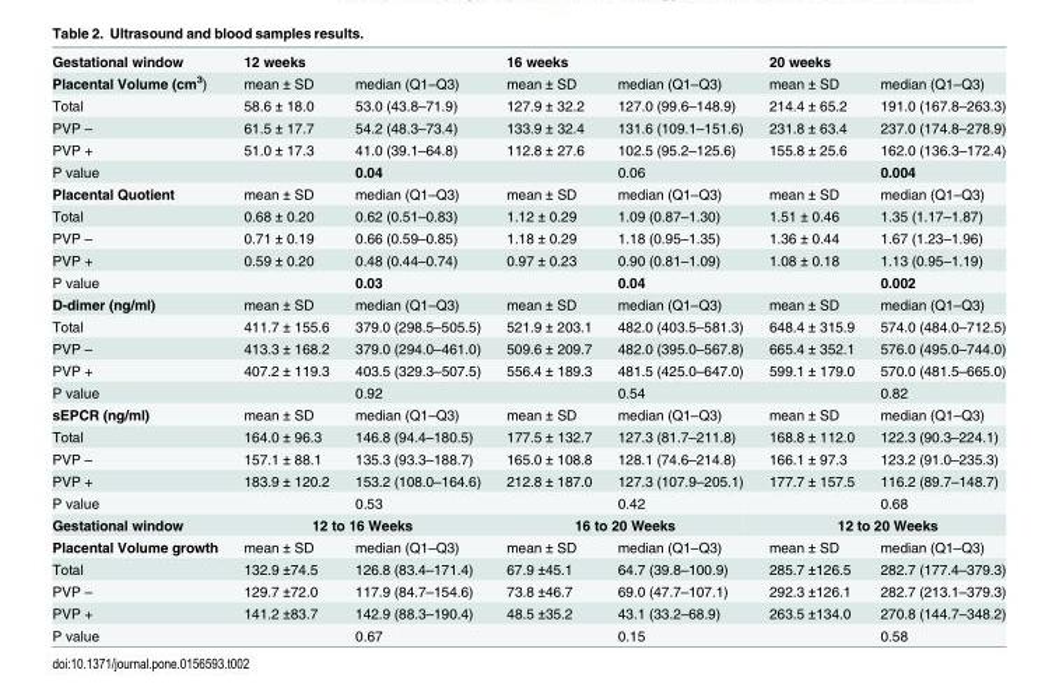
<table><tbody><tr><td>Gestational window</td><td colspan="2">12 weeks</td><td colspan="2">16 weeks</td><td colspan="2">20 weeks</td></tr><tr><td>Placental Volume (cm<sup>3</sup>)</td><td>mean ± SD</td><td>median (Q1–Q3)</td><td>mean ± SD</td><td>median (Q1–Q3)</td><td>mean ± SD</td><td>median (Q1–Q3)</td></tr><tr><td>Total</td><td>58.6 ± 18.0</td><td>53.0 (43.8–71.9)</td><td>127.9 ± 32.2</td><td>127.0 (99.6–148.9)</td><td>214.4 ± 65.2</td><td>191.0 (167.8–263.3)</td></tr><tr><td>PVP –</td><td>61.5 ± 17.7</td><td>54.2 (48.3–73.4)</td><td>133.9 ± 32.4</td><td>131.6 (109.1–151.6)</td><td>231.8 ± 63.4</td><td>237.0 (174.8–278.9)</td></tr><tr><td>PVP +</td><td>51.0 ± 17.3</td><td>41.0 (39.1–64.8)</td><td>112.8 ± 27.6</td><td>102.5 (95.2–125.6)</td><td>155.8 ± 25.6</td><td>162.0 (136.3–172.4)</td></tr><tr><td>P value</td><td></td><td>0.04</td><td></td><td>0.06</td><td></td><td>0.004</td></tr><tr><td>Placental Quotient</td><td>mean ± SD</td><td>median (Q1–Q3)</td><td>mean ± SD</td><td>median (Q1–Q3)</td><td>mean ± SD</td><td>median (Q1–Q3)</td></tr><tr><td>Total</td><td>0.68 ± 0.20</td><td>0.62 (0.51–0.83)</td><td>1.12 ± 0.29</td><td>1.09 (0.87–1.30)</td><td>1.51 ± 0.46</td><td>1.35 (1.17–1.87)</td></tr><tr><td>PVP –</td><td>0.71 ± 0.19</td><td>0.66 (0.59–0.85)</td><td>1.18 ± 0.29</td><td>1.18 (0.95–1.35)</td><td>1.36 ± 0.44</td><td>1.67 (1.23–1.96)</td></tr><tr><td>PVP +</td><td>0.59 ± 0.20</td><td>0.48 (0.44–0.74)</td><td>0.97 ± 0.23</td><td>0.90 (0.81–1.09)</td><td>1.08 ± 0.18</td><td>1.13 (0.95–1.19)</td></tr><tr><td>P value</td><td></td><td>0.03</td><td></td><td>0.04</td><td></td><td>0.002</td></tr><tr><td>D-dimer (ng/ml)</td><td>mean ± SD</td><td>median (Q1–Q3)</td><td>mean ± SD</td><td>median (Q1–Q3)</td><td>mean ± SD</td><td>median (Q1–Q3)</td></tr><tr><td>Total</td><td>411.7 ± 155.6</td><td>379.0 (298.5–505.5)</td><td>521.9 ± 203.1</td><td>482.0 (403.5–581.3)</td><td>648.4 ± 315.9</td><td>574.0 (484.0–712.5)</td></tr><tr><td>PVP –</td><td>413.3 ± 168.2</td><td>379.0 (294.0–461.0)</td><td>509.6 ± 209.7</td><td>482.0 (395.0–567.8)</td><td>665.4 ± 352.1</td><td>576.0 (495.0–744.0)</td></tr><tr><td>PVP +</td><td>407.2 ± 119.3</td><td>403.5 (329.3–507.5)</td><td>556.4 ± 189.3</td><td>481.5 (425.0–647.0)</td><td>599.1 ± 179.0</td><td>570.0 (481.5–665.0)</td></tr><tr><td>P value</td><td></td><td>0.92</td><td></td><td>0.54</td><td></td><td>0.82</td></tr><tr><td>sEPCR (ng/ml)</td><td>mean ± SD</td><td>median (Q1–Q3)</td><td>mean ± SD</td><td>median (Q1–Q3)</td><td>mean ± SD</td><td>median (Q1–Q3)</td></tr><tr><td>Total</td><td>164.0 ± 96.3</td><td>146.8 (94.4–180.5)</td><td>177.5 ± 132.7</td><td>127.3 (81.7–211.8)</td><td>168.8 ± 112.0</td><td>122.3 (90.3–224.1)</td></tr><tr><td>PVP –</td><td>157.1 ± 88.1</td><td>135.3 (93.3–188.7)</td><td>165.0 ± 108.8</td><td>128.1 (74.6–214.8)</td><td>166.1 ± 97.3</td><td>123.2 (91.0–235.3)</td></tr><tr><td>PVP +</td><td>183.9 ± 120.2</td><td>153.2 (108.0–164.6)</td><td>212.8 ± 187.0</td><td>127.3 (107.9–205.1)</td><td>177.7 ± 157.5</td><td>116.2 (89.7–148.7)</td></tr><tr><td>P value</td><td></td><td>0.53</td><td></td><td>0.42</td><td></td><td>0.68</td></tr><tr><td>Gestational window</td><td colspan="2">12 to 16 Weeks</td><td colspan="2">16 to 20 Weeks</td><td colspan="2">12 to 20 Weeks</td></tr><tr><td>Placental Volume growth</td><td>mean ± SD</td><td>median (Q1–Q3)</td><td>mean ± SD</td><td>median (Q1–Q3)</td><td>mean ± SD</td><td>median (Q1–Q3)</td></tr><tr><td>Total</td><td>132.9 ±74.5</td><td>126.8 (83.4–171.4)</td><td>67.9 ±45.1</td><td>64.7 (39.8–100.9)</td><td>285.7 ±126.5</td><td>282.7 (177.4–379.3)</td></tr><tr><td>PVP –</td><td>129.7 ±72.0</td><td>117.9 (84.7–154.6)</td><td>73.8 ±46.7</td><td>69.0 (47.7–107.1)</td><td>292.3 ±126.1</td><td>282.7 (213.1–379.3)</td></tr><tr><td>PVP +</td><td>141.2 ±83.7</td><td>142.9 (88.3–190.4)</td><td>48.5 ±35.2</td><td>43.1 (33.2–68.9)</td><td>263.5 ±134.0</td><td>270.8 (144.7–348.2)</td></tr><tr><td>P value</td><td></td><td>0.67</td><td></td><td>0.15</td><td></td><td>0.58</td></tr></tbody></table>